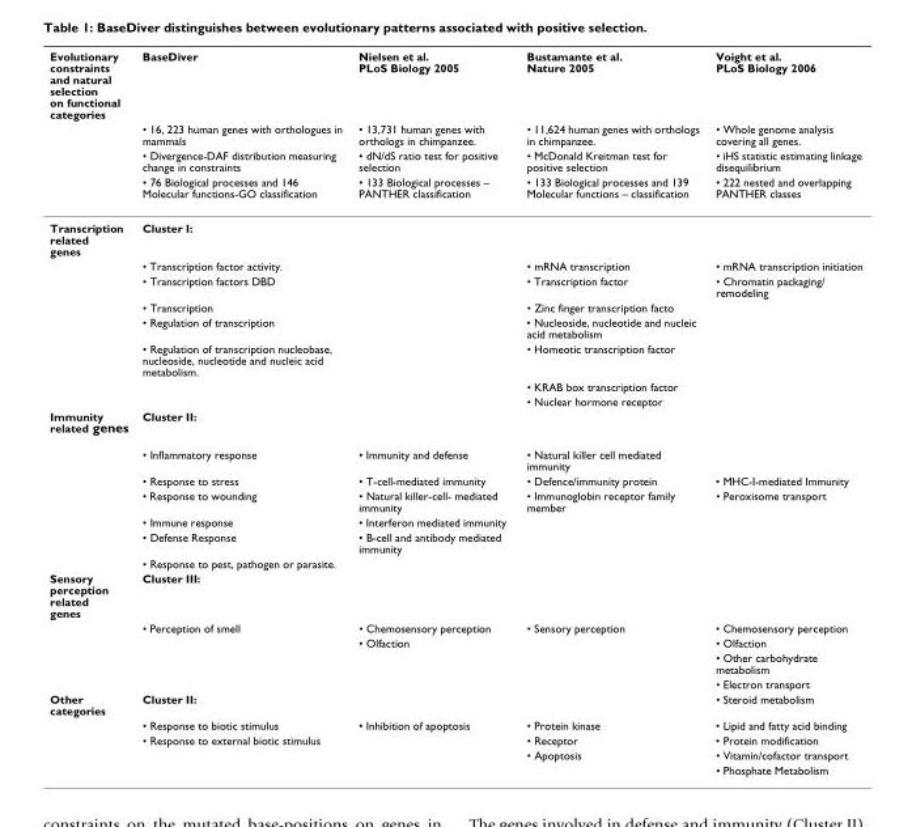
<table><thead><tr><td rowspan="4">Evolutionary constraints and natural selection on functional categories</td><td rowspan="4">BaseDiver • 16, 223 human genes with orthologues in mammals • Divergence-DAF distribution measuring change in constraints • 76 Biological processes and 146 Molecular functions-GO classification</td><td rowspan="4">Nielsen et al. PLoS Biology 2005 • 13,731 human genes with orthologs in chimpanzee. • dN/dS ratio test for positive selection • 133 Biological processes – PANTHER classification</td><td rowspan="4">Bustamante et al. Nature 2005 • 11,624 human genes with orthologs in chimpanzee. • McDonald Kreitman test for positive selection • 133 Biological processes and 139 Molecular functions – classification</td><td rowspan="4">Voight et al. PLoS Biology 2006 • Whole genome analysis covering all genes. • iHS statistic estimating linkage disequilibrium • 222 nested and overlapping PANTHER classes</td></tr><tr></tr><tr></tr><tr></tr></thead><tbody><tr><td rowspan="8">Transcription related genes</td><td>Cluster I:</td><td></td><td></td><td></td></tr><tr><td>• Transcription factor activity.</td><td></td><td>• mRNA transcription</td><td>• mRNA transcription initiation</td></tr><tr><td>• Transcription factors DBD</td><td></td><td>• Transcription factor</td><td>• Chromatin packaging/ remodeling</td></tr><tr><td>• Transcription</td><td></td><td>• Zinc finger transcription facto</td><td></td></tr><tr><td>• Regulation of transcription</td><td></td><td>• Nucleoside, nucleotide and nucleic acid metabolism</td><td></td></tr><tr><td>• Regulation of transcription nucleobase, nucleoside, nucleotide and nucleic acid metabolism.</td><td></td><td>• Homeotic transcription factor</td><td></td></tr><tr><td></td><td></td><td>• KRAB box transcription factor</td><td></td></tr><tr><td></td><td></td><td>• Nuclear hormone receptor</td><td></td></tr><tr><td rowspan="7">Immunity related genes</td><td>Cluster II:</td><td></td><td></td><td></td></tr><tr><td>• Inflammatory response</td><td>• Immunity and defense</td><td>• Natural killer cell mediated immunity</td><td></td></tr><tr><td>• Response to stress</td><td>• T-cell-mediated immunity</td><td>• Defence/immunity protein</td><td>• MHC-I-mediated Immunity</td></tr><tr><td>• Response to wounding</td><td>• Natural killer-cell- mediated immunity</td><td>• Immunoglobin receptor family member</td><td>• Peroxisome transport</td></tr><tr><td>• Immune response</td><td>• Interferon mediated immunity</td><td></td><td></td></tr><tr><td>• Defense Response</td><td>• B-cell and antibody mediated immunity</td><td></td><td></td></tr><tr><td>• Response to pest, pathogen or parasite.</td><td></td><td></td><td></td></tr><tr><td rowspan="5">Sensory perception related genes</td><td>Cluster III:</td><td></td><td></td><td></td></tr><tr><td>• Perception of smell</td><td>• Chemosensory perception</td><td>• Sensory perception</td><td>• Chemosensory perception</td></tr><tr><td></td><td>• Olfaction</td><td></td><td>• Olfaction</td></tr><tr><td></td><td></td><td></td><td>• Other carbohydrate metabolism</td></tr><tr><td></td><td></td><td></td><td>• Electron transport</td></tr><tr><td rowspan="5">Other categories</td><td>Cluster II:</td><td></td><td></td><td>• Steroid metabolism</td></tr><tr><td>• Response to biotic stimulus</td><td>• Inhibition of apoptosis</td><td>• Protein kinase</td><td>• Lipid and fatty acid binding</td></tr><tr><td>• Response to external biotic stimulus</td><td></td><td>• Receptor</td><td>• Protein modification</td></tr><tr><td></td><td></td><td>• Apoptosis</td><td>• Vitamin/cofactor transport</td></tr><tr><td></td><td></td><td></td><td>• Phosphate Metabolism</td></tr></tbody></table>